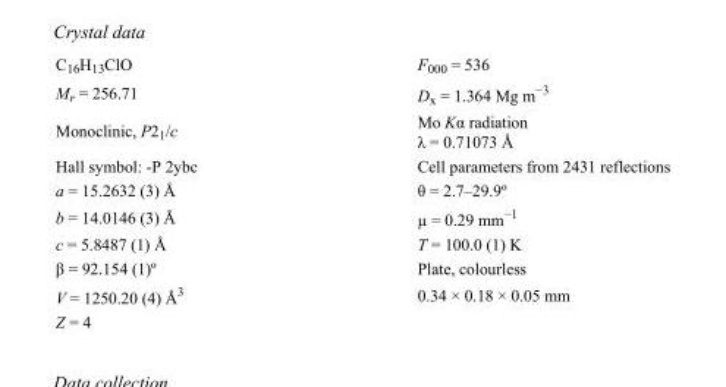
<table><tbody><tr><td>C<sub>16</sub>H<sub>13</sub>ClO</td><td>F<sub>000</sub> = 536</td></tr><tr><td>M<sub>r</sub> = 256.71</td><td>D<sub>x</sub> = 1.364 Mg m<sup>−3</sup></td></tr><tr><td>Monoclinic, P2<sub>1</sub>/c</td><td>Mo Kα radiation λ = 0.71073 Å</td></tr><tr><td>Hall symbol: -P 2ybc</td><td>Cell parameters from 2431 reflections</td></tr><tr><td>a = 15.2632 (3) Å</td><td>θ = 2.7–29.9º</td></tr><tr><td>b = 14.0146 (3) Å</td><td>µ = 0.29 mm<sup>−1</sup></td></tr><tr><td>c = 5.8487 (1) Å</td><td>T = 100.0 (1) K</td></tr><tr><td>β = 92.154 (1)º</td><td>Plate, colourless</td></tr><tr><td>V = 1250.20 (4) Å<sup>3</sup></td><td>0.34 × 0.18 × 0.05 mm</td></tr><tr><td>Z = 4</td><td></td></tr></tbody></table>